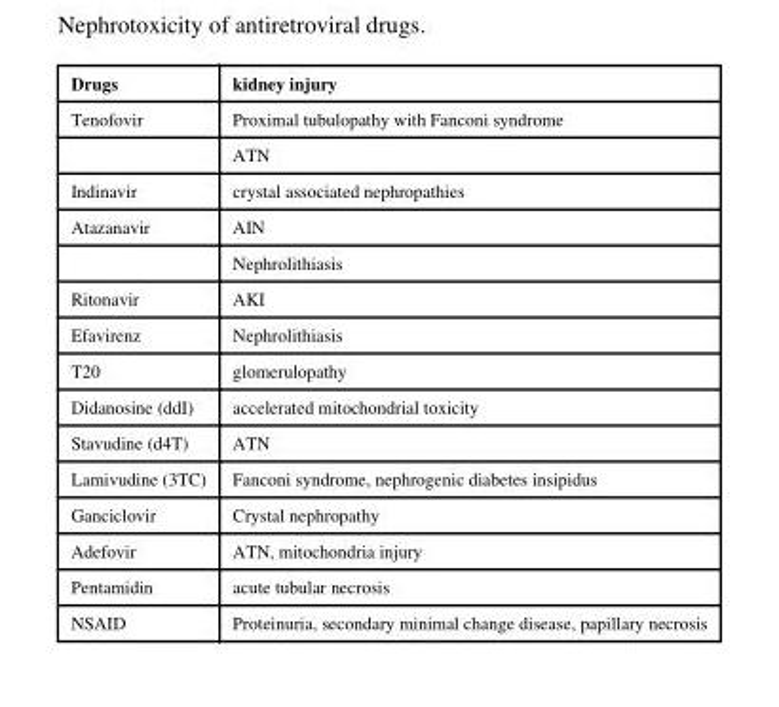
<table><thead><tr><td>Drugs</td><td>kidney injury</td></tr></thead><tbody><tr><td rowspan="2">Tenofovir</td><td>Proximal tubulopathy with Fanconi syndrome</td></tr><tr><td>ATN</td></tr><tr><td>Indinavir</td><td>crystal associated nephropathies</td></tr><tr><td rowspan="2">Atazanavir</td><td>AIN</td></tr><tr><td>Nephrolithiasis</td></tr><tr><td>Ritonavir</td><td>AKI</td></tr><tr><td>Efavirenz</td><td>Nephrolithiasis</td></tr><tr><td>T20</td><td>glomerulopathy</td></tr><tr><td>Didanosine (ddI)</td><td>accelerated mitochondrial toxicity</td></tr><tr><td>Stavudine (d4T)</td><td>ATN</td></tr><tr><td>Lamivudine (3TC)</td><td>Fanconi syndrome, nephrogenic diabetes insipidus</td></tr><tr><td>Ganciclovir</td><td>Crystal nephropathy</td></tr><tr><td>Adefovir</td><td>ATN, mitochondria injury</td></tr><tr><td>Pentamidin</td><td>acute tubular necrosis</td></tr><tr><td>NSAID</td><td>Proteinuria, secondary minimal change disease, papillary necrosis</td></tr></tbody></table>